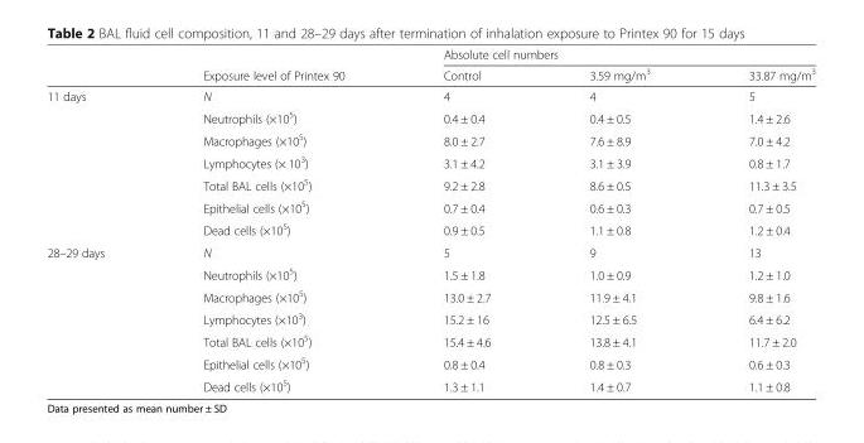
<table><thead><tr><td rowspan="2"></td><td rowspan="2">Exposure level of Printex 90</td><td colspan="3">Absolute cell numbers</td></tr><tr><td>Control</td><td>3.59 mg/m<sup>3</sup></td><td>33.87 mg/m<sup>3</sup></td></tr></thead><tbody><tr><td rowspan="7">11 days</td><td>N</td><td>4</td><td>4</td><td>5</td></tr><tr><td>Neutrophils (×10<sup>5</sup>)</td><td>0.4 ± 0.4</td><td>0.4 ± 0.5</td><td>1.4 ± 2.6</td></tr><tr><td>Macrophages (×10<sup>5</sup>)</td><td>8.0 ± 2.7</td><td>7.6 ± 8.9</td><td>7.0 ± 4.2</td></tr><tr><td>Lymphocytes (× 10<sup>3</sup>)</td><td>3.1 ± 4.2</td><td>3.1 ± 3.9</td><td>0.8 ± 1.7</td></tr><tr><td>Total BAL cells (×10<sup>5</sup>)</td><td>9.2 ± 2.8</td><td>8.6 ± 0.5</td><td>11.3 ± 3.5</td></tr><tr><td>Epithelial cells (×10<sup>5</sup>)</td><td>0.7 ± 0.4</td><td>0.6 ± 0.3</td><td>0.7 ± 0.5</td></tr><tr><td>Dead cells (×10<sup>5</sup>)</td><td>0.9 ± 0.5</td><td>1.1 ± 0.8</td><td>1.2 ± 0.4</td></tr><tr><td rowspan="7">28–29 days</td><td>N</td><td>5</td><td>9</td><td>13</td></tr><tr><td>Neutrophils (×10<sup>5</sup>)</td><td>1.5 ± 1.8</td><td>1.0 ± 0.9</td><td>1.2 ± 1.0</td></tr><tr><td>Macrophages (×10<sup>5</sup>)</td><td>13.0 ± 2.7</td><td>11.9 ± 4.1</td><td>9.8 ± 1.6</td></tr><tr><td>Lymphocytes (×10<sup>3</sup>)</td><td>15.2 ± 16</td><td>12.5 ± 6.5</td><td>6.4 ± 6.2</td></tr><tr><td>Total BAL cells (×10<sup>5</sup>)</td><td>15.4 ± 4.6</td><td>13.8 ± 4.1</td><td>11.7 ± 2.0</td></tr><tr><td>Epithelial cells (×10<sup>5</sup>)</td><td>0.8 ± 0.4</td><td>0.8 ± 0.3</td><td>0.6 ± 0.3</td></tr><tr><td>Dead cells (×10<sup>5</sup>)</td><td>1.3 ± 1.1</td><td>1.4 ± 0.7</td><td>1.1 ± 0.8</td></tr></tbody></table>